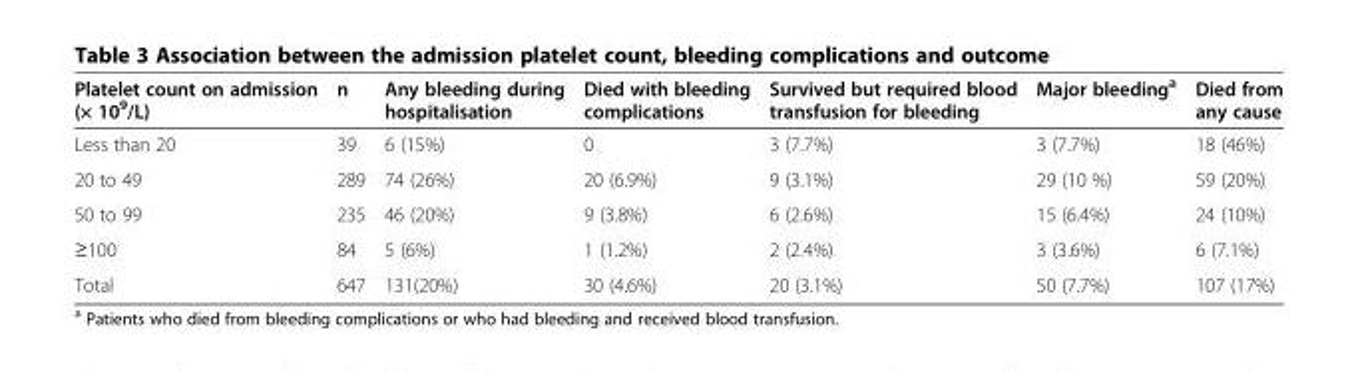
<table><thead><tr><td>Platelet count on admission (× 10<sup>9</sup>/L)</td><td>n</td><td>Any bleeding during hospitalisation</td><td>Died with bleeding complications</td><td>Survived but required blood transfusion for bleeding</td><td>Major bleeding<sup>a</sup></td><td>Died from any cause</td></tr></thead><tbody><tr><td>Less than 20</td><td>39</td><td>6 (15%)</td><td>0</td><td>3 (7.7%)</td><td>3 (7.7%)</td><td>18 (46%)</td></tr><tr><td>20 to 49</td><td>289</td><td>74 (26%)</td><td>20 (6.9%)</td><td>9 (3.1%)</td><td>29 (10 %)</td><td>59 (20%)</td></tr><tr><td>50 to 99</td><td>235</td><td>46 (20%)</td><td>9 (3.8%)</td><td>6 (2.6%)</td><td>15 (6.4%)</td><td>24 (10%)</td></tr><tr><td>≥100</td><td>84</td><td>5 (6%)</td><td>1 (1.2%)</td><td>2 (2.4%)</td><td>3 (3.6%)</td><td>6 (7.1%)</td></tr><tr><td>Total</td><td>647</td><td>131(20%)</td><td>30 (4.6%)</td><td>20 (3.1%)</td><td>50 (7.7%)</td><td>107 (17%)</td></tr></tbody></table>